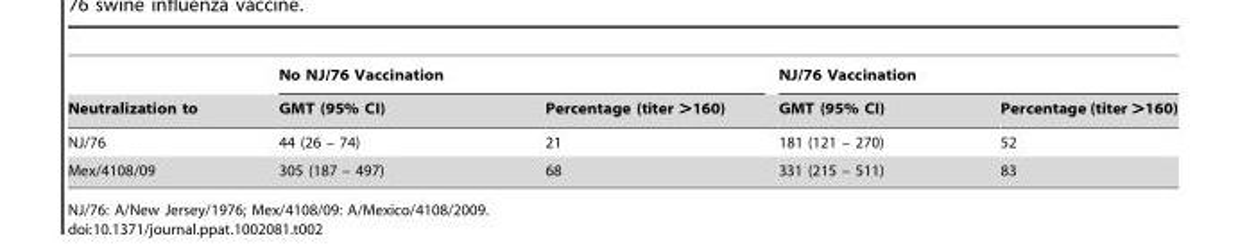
<table><thead><tr><td rowspan="2">Neutralization to</td><td colspan="2">No NJ/76 Vaccination</td><td colspan="2">NJ/76 Vaccination</td></tr><tr><td>GMT (95% CI)</td><td>Percentage (titer &gt;160)</td><td>GMT (95% CI)</td><td>Percentage (titer &gt;160)</td></tr></thead><tbody><tr><td>NJ/76</td><td>44 (26 – 74)</td><td>21</td><td>181 (121 – 270)</td><td>52</td></tr><tr><td>Mex/4108/09</td><td>305 (187 – 497)</td><td>68</td><td>331 (215 – 511)</td><td>83</td></tr></tbody></table>